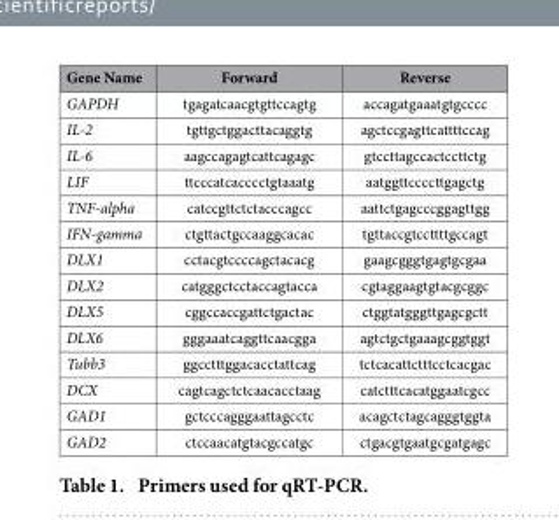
<table><thead><tr><td>Gene Name</td><td>Forward</td><td>Reverse</td></tr></thead><tbody><tr><td>GAPDH</td><td>tgagatcaacgtgttccagtg</td><td>accagatgaaatgtgcccc</td></tr><tr><td>IL-2</td><td>tgttgctggacttacaggtg</td><td>agctccgagttcattttccag</td></tr><tr><td>IL-6</td><td>aagccagagtcattcagagc</td><td>gtccttagccactccttctg</td></tr><tr><td>LIF</td><td>ttcccatcacccctgtaaatg</td><td>aatggttccccttgagctg</td></tr><tr><td>TNF-alpha</td><td>catccgttctctacccagcc</td><td>aattctgagcccggagttgg</td></tr><tr><td>IFN-gamma</td><td>ctgttactgccaaggcacac</td><td>tgttaccgtccttttgccagt</td></tr><tr><td>DLX1</td><td>cctacgtccccagctacacg</td><td>gaagcgggtgagtgcgaa</td></tr><tr><td>DLX2</td><td>catgggctcctaccagtacca</td><td>cgtaggaagtgtacgcggc</td></tr><tr><td>DLX5</td><td>cggccaccgattctgactac</td><td>ctggtatgggttgagcgctt</td></tr><tr><td>DLX6</td><td>gggaaatcaggttcaacgga</td><td>agtctgctgaaagcggtggt</td></tr><tr><td>Tubb3</td><td>ggcctttggacacctattcag</td><td>tctcacattctttcctcacgac</td></tr><tr><td>DCX</td><td>cagtcagctctcaacacctaag</td><td>catctttcacatggaatcgcc</td></tr><tr><td>GAD1</td><td>gctcccagggaattagcctc</td><td>acagctctagcagggtggta</td></tr><tr><td>GAD2</td><td>ctccaacatgtacgccatgc</td><td>ctgacgtgaatgcgatgagc</td></tr></tbody></table>